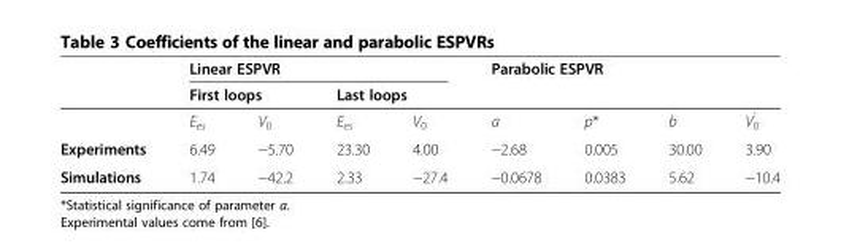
<table><thead><tr><td rowspan="3"></td><td colspan="4">Linear ESPVR</td><td colspan="4">Parabolic ESPVR</td></tr><tr><td colspan="2">First loops</td><td colspan="2">Last loops</td><td rowspan="2">a</td><td rowspan="2">p*</td><td rowspan="2">b</td><td rowspan="2">V<sub>0</sub> <sup>’</sup></td></tr><tr><td>E<sub>es</sub></td><td>V<sub>0</sub></td><td>E<sub>es</sub></td><td>V<sub>0</sub></td></tr></thead><tbody><tr><td>Experiments</td><td>6.49</td><td>−5.70</td><td>23.30</td><td>4.00</td><td>−2.68</td><td>0.005</td><td>30.00</td><td>3.90</td></tr><tr><td>Simulations</td><td>1.74</td><td>−42.2</td><td>2.33</td><td>−27.4</td><td>−0.0678</td><td>0.0383</td><td>5.62</td><td>−10.4</td></tr></tbody></table>